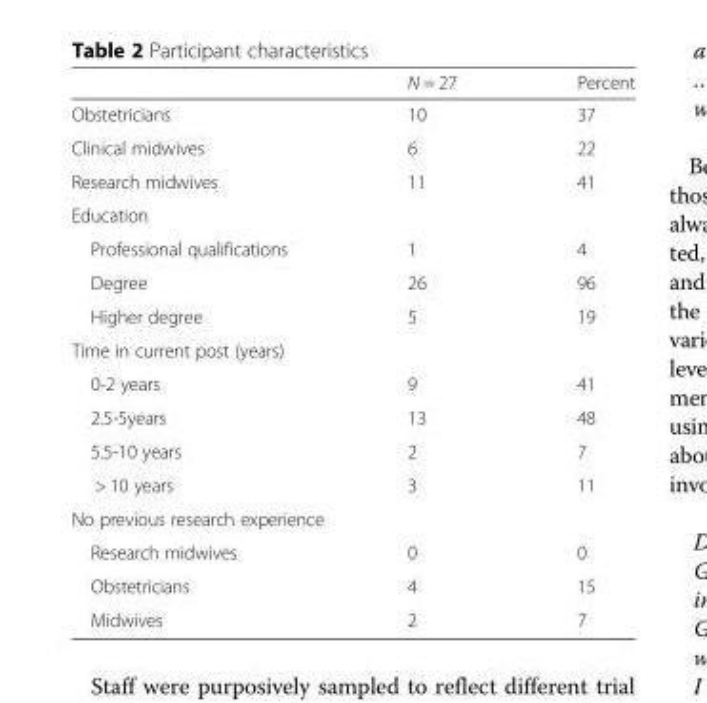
<table><thead><tr><td></td><td>N = 27</td><td>Percent</td></tr></thead><tbody><tr><td>Obstetricians</td><td>10</td><td>37</td></tr><tr><td>Clinical midwives</td><td>6</td><td>22</td></tr><tr><td>Research midwives</td><td>11</td><td>41</td></tr><tr><td colspan="3">Education</td></tr><tr><td>Professional qualifications</td><td>1</td><td>4</td></tr><tr><td>Degree</td><td>26</td><td>96</td></tr><tr><td>Higher degree</td><td>5</td><td>19</td></tr><tr><td colspan="3">Time in current post (years)</td></tr><tr><td>0-2 years</td><td>9</td><td>41</td></tr><tr><td>2.5-5years</td><td>13</td><td>48</td></tr><tr><td>5.5-10 years</td><td>2</td><td>7</td></tr><tr><td>&gt; 10 years</td><td>3</td><td>11</td></tr><tr><td colspan="3">No previous research experience</td></tr><tr><td>Research midwives</td><td>0</td><td>0</td></tr><tr><td>Obstetricians</td><td>4</td><td>15</td></tr><tr><td>Midwives</td><td>2</td><td>7</td></tr></tbody></table>